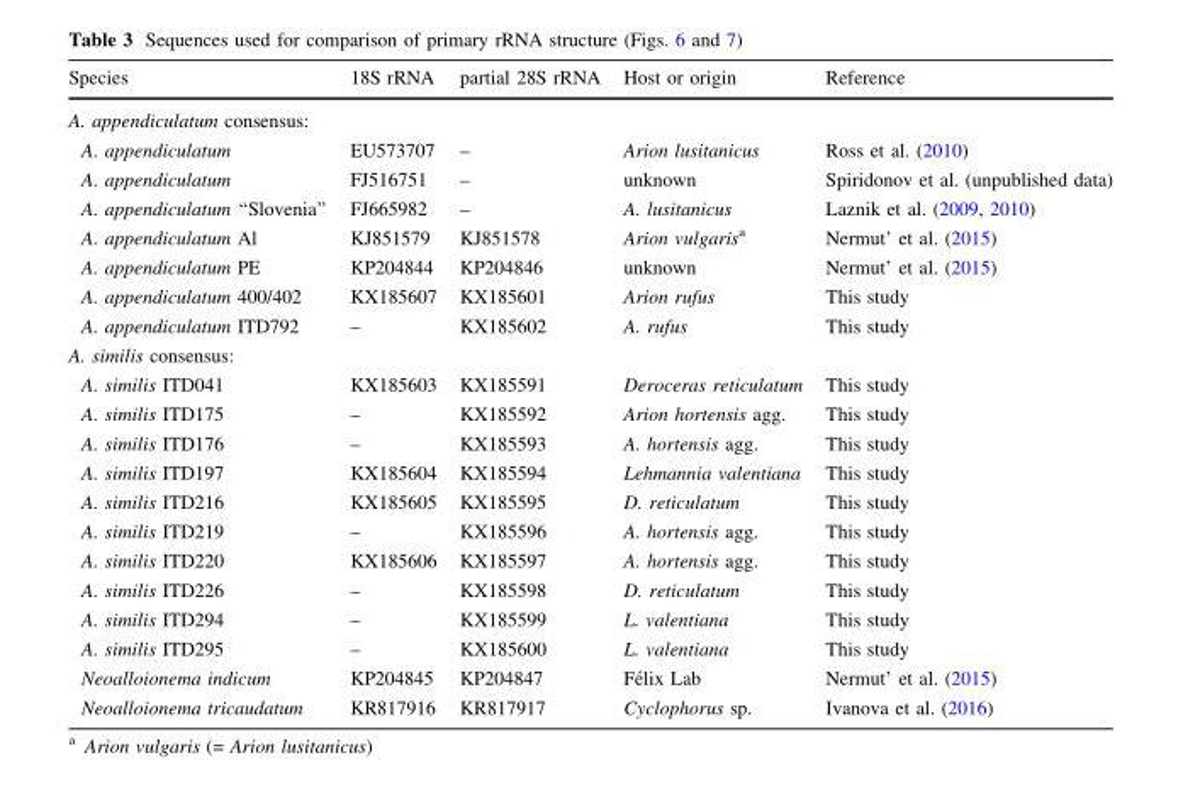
<table><thead><tr><td>Species</td><td>18S rRNA</td><td>partial 28S rRNA</td><td>Host or origin</td><td>Reference</td></tr></thead><tbody><tr><td colspan="5">A. appendiculatum consensus:</td></tr><tr><td>A. appendiculatum</td><td>EU573707</td><td>–</td><td>Arion lusitanicus</td><td>Ross et al. (2010)</td></tr><tr><td>A. appendiculatum</td><td>FJ516751</td><td>–</td><td>unknown</td><td>Spiridonov et al. (unpublished data)</td></tr><tr><td>A. appendiculatum ‘‘Slovenia’’</td><td>FJ665982</td><td>–</td><td>A. lusitanicus</td><td>Laznik et al. (2009, 2010)</td></tr><tr><td>A. appendiculatum Al</td><td>KJ851579</td><td>KJ851578</td><td>Arion vulgaris<sup>a</sup></td><td>Nermut’ et al. (2015)</td></tr><tr><td>A. appendiculatum PE</td><td>KP204844</td><td>KP204846</td><td>unknown</td><td>Nermut’ et al. (2015)</td></tr><tr><td>A. appendiculatum 400/402</td><td>KX185607</td><td>KX185601</td><td>Arion rufus</td><td>This study</td></tr><tr><td>A. appendiculatum ITD792</td><td>–</td><td>KX185602</td><td>A. rufus</td><td>This study</td></tr><tr><td colspan="5">A. similis consensus:</td></tr><tr><td>A. similis ITD041</td><td>KX185603</td><td>KX185591</td><td>Deroceras reticulatum</td><td>This study</td></tr><tr><td>A. similis ITD175</td><td>–</td><td>KX185592</td><td>Arion hortensis agg.</td><td>This study</td></tr><tr><td>A. similis ITD176</td><td>–</td><td>KX185593</td><td>A. hortensis agg.</td><td>This study</td></tr><tr><td>A. similis ITD197</td><td>KX185604</td><td>KX185594</td><td>Lehmannia valentiana</td><td>This study</td></tr><tr><td>A. similis ITD216</td><td>KX185605</td><td>KX185595</td><td>D. reticulatum</td><td>This study</td></tr><tr><td>A. similis ITD219</td><td>–</td><td>KX185596</td><td>A. hortensis agg.</td><td>This study</td></tr><tr><td>A. similis ITD220</td><td>KX185606</td><td>KX185597</td><td>A. hortensis agg.</td><td>This study</td></tr><tr><td>A. similis ITD226</td><td>–</td><td>KX185598</td><td>D. reticulatum</td><td>This study</td></tr><tr><td>A. similis ITD294</td><td>–</td><td>KX185599</td><td>L. valentiana</td><td>This study</td></tr><tr><td>A. similis ITD295</td><td>–</td><td>KX185600</td><td>L. valentiana</td><td>This study</td></tr><tr><td>Neoalloionema indicum</td><td>KP204845</td><td>KP204847</td><td>Fe´lix Lab</td><td>Nermut’ et al. (2015)</td></tr><tr><td>Neoalloionema tricaudatum</td><td>KR817916</td><td>KR817917</td><td>Cyclophorus sp.</td><td>Ivanova et al. (2016)</td></tr></tbody></table>